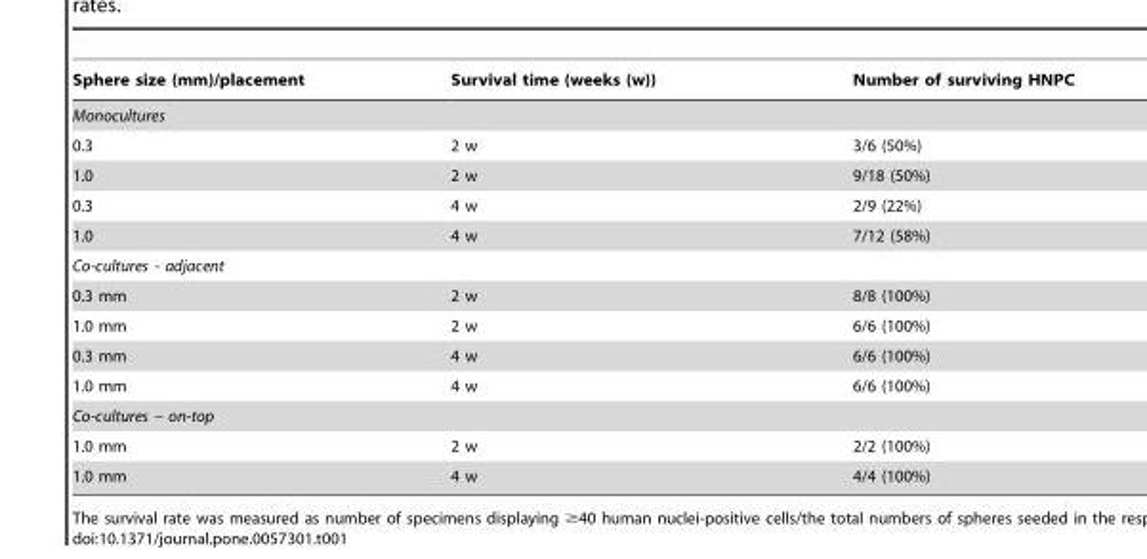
<table><thead><tr><td>Sphere size (mm)/placement</td><td>Survival time (weeks (w))</td><td>Number of surviving HNPC</td></tr></thead><tbody><tr><td colspan="3">Monocultures</td></tr><tr><td>0.3</td><td>2 w</td><td>3/6 (50%)</td></tr><tr><td>1.0</td><td>2 w</td><td>9/18 (50%)</td></tr><tr><td>0.3</td><td>4 w</td><td>2/9 (22%)</td></tr><tr><td>1.0</td><td>4 w</td><td>7/12 (58%)</td></tr><tr><td colspan="3">Co-cultures - adjacent</td></tr><tr><td>0.3 mm</td><td>2 w</td><td>8/8 (100%)</td></tr><tr><td>1.0 mm</td><td>2 w</td><td>6/6 (100%)</td></tr><tr><td>0.3 mm</td><td>4 w</td><td>6/6 (100%)</td></tr><tr><td>1.0 mm</td><td>4 w</td><td>6/6 (100%)</td></tr><tr><td colspan="3">Co-cultures – on-top</td></tr><tr><td>1.0 mm</td><td>2 w</td><td>2/2 (100%)</td></tr><tr><td>1.0 mm</td><td>4 w</td><td>4/4 (100%)</td></tr></tbody></table>